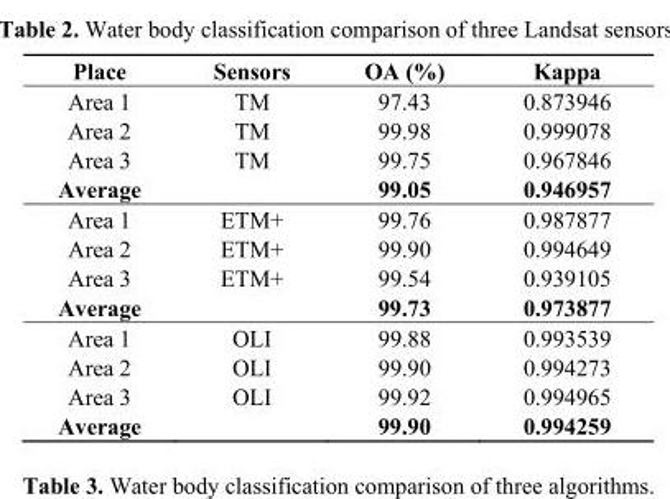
<table><thead><tr><td>Place</td><td>Sensors</td><td>OA (%)</td><td>Kappa</td></tr></thead><tbody><tr><td>Area 1</td><td>TM</td><td>97.43</td><td>0.873946</td></tr><tr><td>Area 2</td><td>TM</td><td>99.98</td><td>0.999078</td></tr><tr><td>Area 3</td><td>TM</td><td>99.75</td><td>0.967846</td></tr><tr><td>Average</td><td></td><td>99.05</td><td>0.946957</td></tr><tr><td>Area 1</td><td>ETM+</td><td>99.76</td><td>0.987877</td></tr><tr><td>Area 2</td><td>ETM+</td><td>99.90</td><td>0.994649</td></tr><tr><td>Area 3</td><td>ETM+</td><td>99.54</td><td>0.939105</td></tr><tr><td>Average</td><td></td><td>99.73</td><td>0.973877</td></tr><tr><td>Area 1</td><td>OLI</td><td>99.88</td><td>0.993539</td></tr><tr><td>Area 2</td><td>OLI</td><td>99.90</td><td>0.994273</td></tr><tr><td>Area 3</td><td>OLI</td><td>99.92</td><td>0.994965</td></tr><tr><td>Average</td><td></td><td>99.90</td><td>0.994259</td></tr></tbody></table>